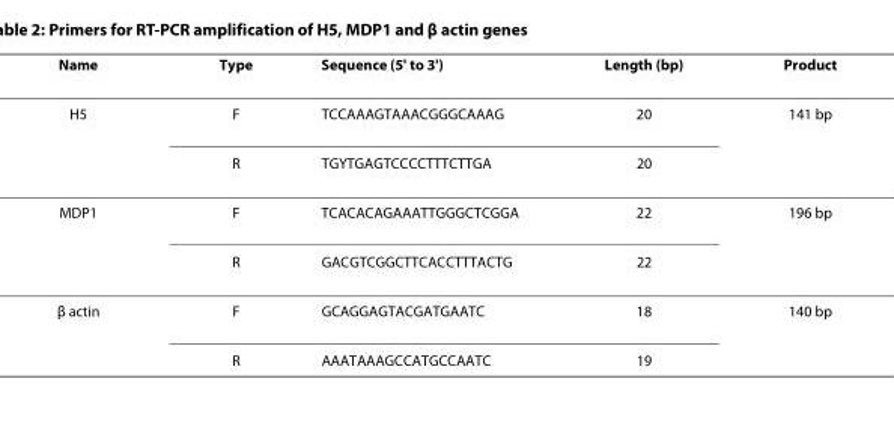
<table><thead><tr><td>Name</td><td>Type</td><td>Sequence (5&#x27; to 3&#x27;)</td><td>Length (bp)</td><td>Product</td></tr></thead><tbody><tr><td rowspan="2">H5</td><td>F</td><td>TCCAAAGTAAACGGGCAAAG</td><td>20</td><td>141 bp</td></tr><tr><td>R</td><td>TGYTGAGTCCCCTTTCTTGA</td><td>20</td><td></td></tr><tr><td rowspan="2">MDP1</td><td>F</td><td>TCACACAGAAATTGGGCTCGGA</td><td>22</td><td>196 bp</td></tr><tr><td>R</td><td>GACGTCGGCTTCACCTTTACTG</td><td>22</td><td></td></tr><tr><td rowspan="2">β actin</td><td>F</td><td>GCAGGAGTACGATGAATC</td><td>18</td><td>140 bp</td></tr><tr><td>R</td><td>AAATAAAGCCATGCCAATC</td><td>19</td><td></td></tr></tbody></table>